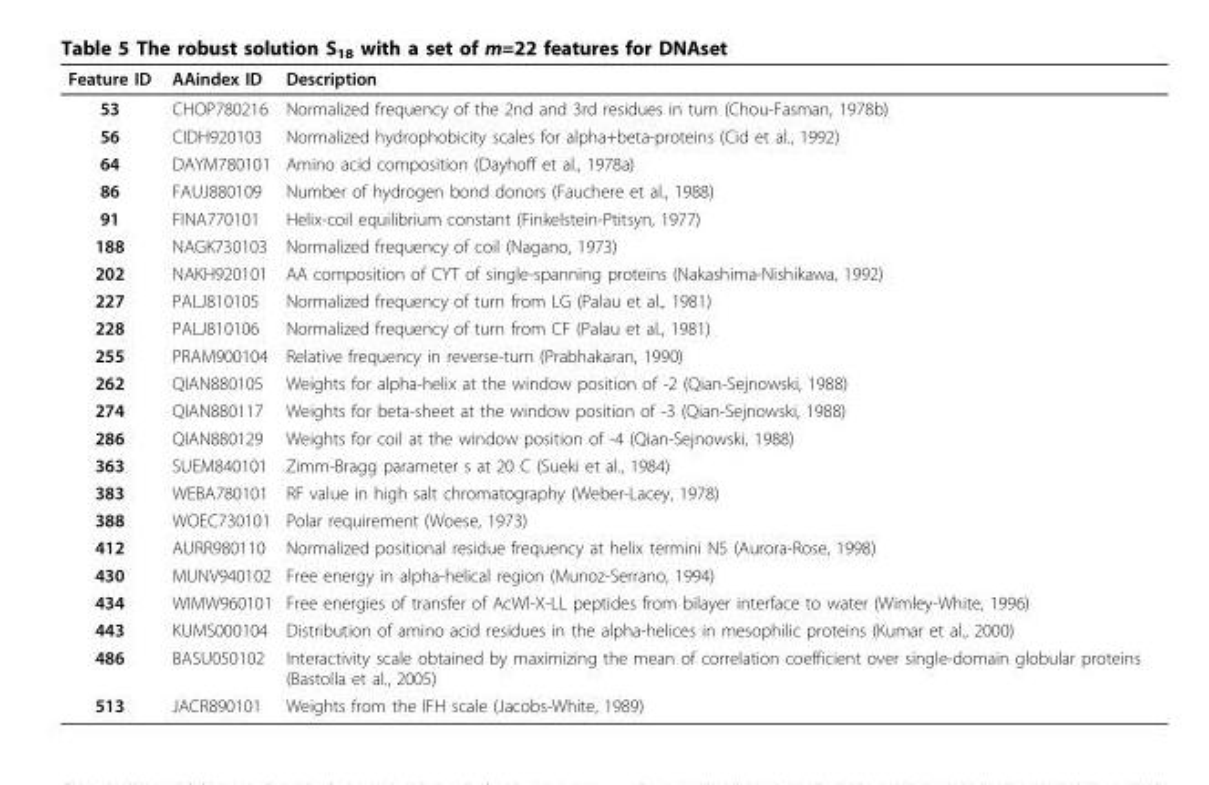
<table><thead><tr><td>Feature ID</td><td>AAindex ID</td><td>Description</td></tr></thead><tbody><tr><td>53</td><td>CHOP780216</td><td>Normalized frequency of the 2nd and 3rd residues in turn (Chou-Fasman, 1978b)</td></tr><tr><td>56</td><td>CIDH920103</td><td>Normalized hydrophobicity scales for alpha+beta-proteins (Cid et al., 1992)</td></tr><tr><td>64</td><td>DAYM780101</td><td>Amino acid composition (Dayhoff et al., 1978a)</td></tr><tr><td>86</td><td>FAUJ880109</td><td>Number of hydrogen bond donors (Fauchere et al., 1988)</td></tr><tr><td>91</td><td>FINA770101</td><td>Helix-coil equilibrium constant (Finkelstein-Ptitsyn, 1977)</td></tr><tr><td>188</td><td>NAGK730103</td><td>Normalized frequency of coil (Nagano, 1973)</td></tr><tr><td>202</td><td>NAKH920101</td><td>AA composition of CYT of single-spanning proteins (Nakashima-Nishikawa, 1992)</td></tr><tr><td>227</td><td>PALJ810105</td><td>Normalized frequency of turn from LG (Palau et al., 1981)</td></tr><tr><td>228</td><td>PALJ810106</td><td>Normalized frequency of turn from CF (Palau et al., 1981)</td></tr><tr><td>255</td><td>PRAM900104</td><td>Relative frequency in reverse-turn (Prabhakaran, 1990)</td></tr><tr><td>262</td><td>QIAN880105</td><td>Weights for alpha-helix at the window position of -2 (Qian-Sejnowski, 1988)</td></tr><tr><td>274</td><td>QIAN880117</td><td>Weights for beta-sheet at the window position of -3 (Qian-Sejnowski, 1988)</td></tr><tr><td>286</td><td>QIAN880129</td><td>Weights for coil at the window position of -4 (Qian-Sejnowski, 1988)</td></tr><tr><td>363</td><td>SUEM840101</td><td>Zimm-Bragg parameter s at 20 C (Sueki et al., 1984)</td></tr><tr><td>383</td><td>WEBA780101</td><td>RF value in high salt chromatography (Weber-Lacey, 1978)</td></tr><tr><td>388</td><td>WOEC730101</td><td>Polar requirement (Woese, 1973)</td></tr><tr><td>412</td><td>AURR980110</td><td>Normalized positional residue frequency at helix termini N5 (Aurora-Rose, 1998)</td></tr><tr><td>430</td><td>MUNV940102</td><td>Free energy in alpha-helical region (Munoz-Serrano, 1994)</td></tr><tr><td>434</td><td>WIMW960101</td><td>Free energies of transfer of AcWl-X-LL peptides from bilayer interface to water (Wimley-White, 1996)</td></tr><tr><td>443</td><td>KUMS000104</td><td>Distribution of amino acid residues in the alpha-helices in mesophilic proteins (Kumar et al., 2000)</td></tr><tr><td>486</td><td>BASU050102</td><td>Interactivity scale obtained by maximizing the mean of correlation coefficient over single-domain globular proteins (Bastolla et al., 2005)</td></tr><tr><td>513</td><td>JACR890101</td><td>Weights from the IFH scale (Jacobs-White, 1989)</td></tr></tbody></table>